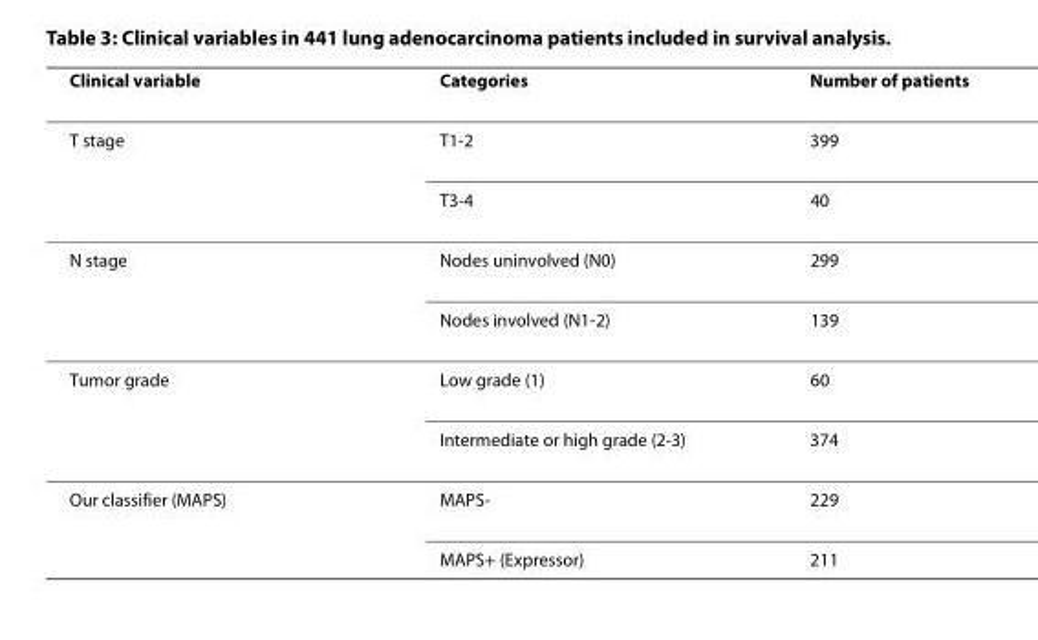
<table><thead><tr><td>Clinical variable</td><td>Categories</td><td>Number of patients</td></tr></thead><tbody><tr><td rowspan="2">T stage</td><td>T1-2</td><td>399</td></tr><tr><td>T3-4</td><td>40</td></tr><tr><td rowspan="2">N stage</td><td>Nodes uninvolved (N0)</td><td>299</td></tr><tr><td>Nodes involved (N1-2)</td><td>139</td></tr><tr><td rowspan="2">Tumor grade</td><td>Low grade (1)</td><td>60</td></tr><tr><td>Intermediate or high grade (2-3)</td><td>374</td></tr><tr><td rowspan="2">Our classifier (MAPS)</td><td>MAPS-</td><td>229</td></tr><tr><td>MAPS+ (Expressor)</td><td>211</td></tr></tbody></table>